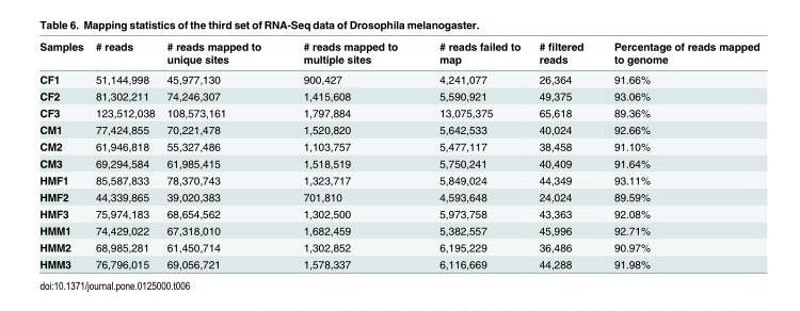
<table><thead><tr><td>Samples</td><td># reads</td><td># reads mapped to unique sites</td><td># reads mapped to multiple sites</td><td># reads failed to map</td><td># filtered reads</td><td>Percentage of reads mapped to genome</td></tr></thead><tbody><tr><td>CF1</td><td>51,144,998</td><td>45,977,130</td><td>900,427</td><td>4,241,077</td><td>26,364</td><td>91.66%</td></tr><tr><td>CF2</td><td>81,302,211</td><td>74,246,307</td><td>1,415,608</td><td>5,590,921</td><td>49,375</td><td>93.06%</td></tr><tr><td>CF3</td><td>123,512,038</td><td>108,573,161</td><td>1,797,884</td><td>13,075,375</td><td>65,618</td><td>89.36%</td></tr><tr><td>CM1</td><td>77,424,855</td><td>70,221,478</td><td>1,520,820</td><td>5,642,533</td><td>40,024</td><td>92.66%</td></tr><tr><td>CM2</td><td>61,946,818</td><td>55,327,486</td><td>1,103,757</td><td>5,477,117</td><td>38,458</td><td>91.10%</td></tr><tr><td>CM3</td><td>69,294,584</td><td>61,985,415</td><td>1,518,519</td><td>5,750,241</td><td>40,409</td><td>91.64%</td></tr><tr><td>HMF1</td><td>85,587,833</td><td>78,370,743</td><td>1,323,717</td><td>5,849,024</td><td>44,349</td><td>93.11%</td></tr><tr><td>HMF2</td><td>44,339,865</td><td>39,020,383</td><td>701,810</td><td>4,593,648</td><td>24,024</td><td>89.59%</td></tr><tr><td>HMF3</td><td>75,974,183</td><td>68,654,562</td><td>1,302,500</td><td>5,973,758</td><td>43,363</td><td>92.08%</td></tr><tr><td>HMM1</td><td>74,429,022</td><td>67,318,010</td><td>1,682,459</td><td>5,382,557</td><td>45,996</td><td>92.71%</td></tr><tr><td>HMM2</td><td>68,985,281</td><td>61,450,714</td><td>1,302,852</td><td>6,195,229</td><td>36,486</td><td>90.97%</td></tr><tr><td>HMM3</td><td>76,796,015</td><td>69,056,721</td><td>1,578,337</td><td>6,116,669</td><td>44,288</td><td>91.98%</td></tr></tbody></table>